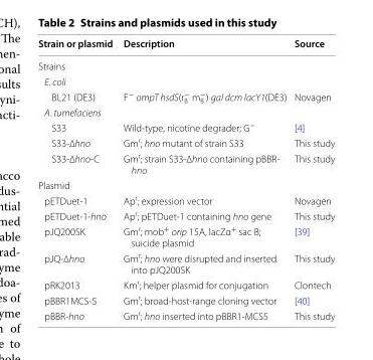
<table><thead><tr><td>Strain or plasmid</td><td>Description</td><td>Source</td></tr></thead><tbody><tr><td colspan="3">Strains</td></tr><tr><td colspan="3">E. coli</td></tr><tr><td>BL21 (DE3)</td><td>F<sup>−</sup> ompT hsdS(r<sub>B</sub> <sup>−</sup> m<sub>B</sub> <sup>−</sup>) gal dcm lacY1(DE3)</td><td>Novagen</td></tr><tr><td colspan="3">A. tumefaciens</td></tr><tr><td>S33</td><td>Wild-type, nicotine degrader; G<sup>−</sup></td><td>[4]</td></tr><tr><td>S33-∆hno</td><td>Gm<sup>r</sup>; hno mutant of strain S33</td><td>This study</td></tr><tr><td>S33-∆hno-C</td><td>Gm<sup>r</sup>; strain S33-∆hno containing pBBR- hno</td><td>This study</td></tr><tr><td colspan="3">Plasmid</td></tr><tr><td>pETDuet-1</td><td>Ap<sup>r</sup>; expression vector</td><td>Novagen</td></tr><tr><td>pETDuet-1-hno</td><td>Ap<sup>r</sup>; pETDuet-1 containing hno gene</td><td>This study</td></tr><tr><td>pJQ200SK</td><td>Gm<sup>r</sup>; mob<sup>+</sup> orip 15A, lacZα<sup>+</sup> sac B; suicide plasmid</td><td>[39]</td></tr><tr><td>pJQ-∆hno</td><td>Gm<sup>r</sup>; hno were disrupted and inserted into pJQ200SK</td><td>This study</td></tr><tr><td>pRK2013</td><td>Km<sup>r</sup>; helper plasmid for conjugation</td><td>Clontech</td></tr><tr><td>pBBR1MCS-5</td><td>Gm<sup>r</sup>; broad-host-range cloning vector</td><td>[40]</td></tr><tr><td>pBBR-hno</td><td>Gm<sup>r</sup>; hno inserted into pBBR1-MCS5</td><td>This study</td></tr></tbody></table>